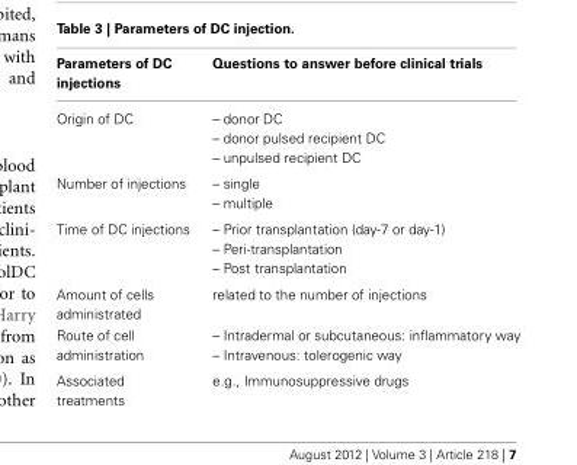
<table><thead><tr><td>Parameters of DC injections</td><td>Questions to answer before clinical trials</td></tr></thead><tbody><tr><td>Origin of DC</td><td>– donor DC – donor pulsed recipient DC – unpulsed recipient DC</td></tr><tr><td>Number of injections</td><td>– single – multiple</td></tr><tr><td>Time of DC injections</td><td>– Prior transplantation (day-7 or day-1) – Peri-transplantation – Post transplantation</td></tr><tr><td>Amount of cells administrated</td><td>related to the number of injections</td></tr><tr><td>Route of cell administration</td><td>– Intradermal or subcutaneous: inflammatory way – Intravenous: tolerogenic way</td></tr><tr><td>Associated treatments</td><td>e.g., Immunosuppressive drugs</td></tr></tbody></table>